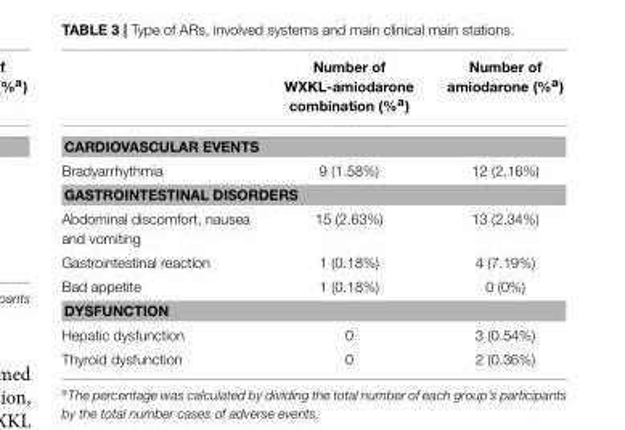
<table><thead><tr><td></td><td>Number of WXKL-amiodarone combination (%<sup>a</sup>)</td><td>Number of amiodarone (%<sup>a</sup>)</td></tr></thead><tbody><tr><td colspan="3">CARDIOVASCULAR EVENTS</td></tr><tr><td>Bradyarrhythmia</td><td>9 (1.58%)</td><td>12 (2.16%)</td></tr><tr><td colspan="3">GASTROINTESTINAL DISORDERS</td></tr><tr><td>Abdominal discomfort, nausea and vomiting</td><td>15 (2.63%)</td><td>13 (2.34%)</td></tr><tr><td>Gastrointestinal reaction</td><td>1 (0.18%)</td><td>4 (7.19%)</td></tr><tr><td>Bad appetite</td><td>1 (0.18%)</td><td>0 (0%)</td></tr><tr><td colspan="3">DYSFUNCTION</td></tr><tr><td>Hepatic dysfunction</td><td>0</td><td>3 (0.54%)</td></tr><tr><td>Thyroid dysfunction</td><td>0</td><td>2 (0.36%)</td></tr></tbody></table>